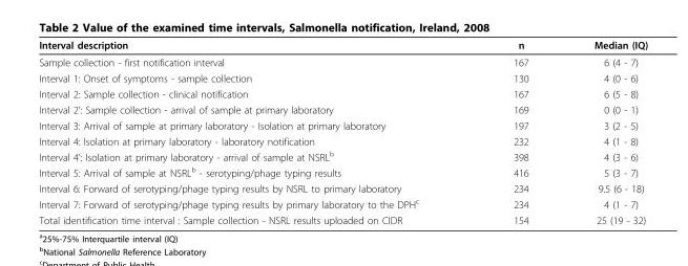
<table><thead><tr><td>Interval description</td><td>n</td><td>Median (IQ)</td></tr></thead><tbody><tr><td>Sample collection - first notification interval</td><td>167</td><td>6 (4 - 7)</td></tr><tr><td>Interval 1: Onset of symptoms - sample collection</td><td>130</td><td>4 (0 - 6)</td></tr><tr><td>Interval 2: Sample collection - clinical notification</td><td>167</td><td>6 (5 - 8)</td></tr><tr><td>Interval 2’: Sample collection - arrival of sample at primary laboratory</td><td>169</td><td>0 (0 - 1)</td></tr><tr><td>Interval 3: Arrival of sample at primary laboratory - Isolation at primary laboratory</td><td>197</td><td>3 (2 - 5)</td></tr><tr><td>Interval 4: Isolation at primary laboratory - laboratory notification</td><td>232</td><td>4 (1 - 8)</td></tr><tr><td>Interval 4’: Isolation at primary laboratory - arrival of sample at NSRL<sup>b</sup></td><td>398</td><td>4 (3 - 6)</td></tr><tr><td>Interval 5: Arrival of sample at NSRL<sup>b</sup> - serotyping/phage typing results</td><td>416</td><td>5 (3 - 7)</td></tr><tr><td>Interval 6: Forward of serotyping/phage typing results by NSRL to primary laboratory</td><td>234</td><td>9.5 (6 - 18)</td></tr><tr><td>Interval 7: Forward of serotyping/phage typing results by primary laboratory to the DPH<sup>c</sup></td><td>234</td><td>4 (1 - 7)</td></tr><tr><td>Total identification time interval : Sample collection - NSRL results uploaded on CIDR</td><td>154</td><td>25 (19 - 32)</td></tr></tbody></table>